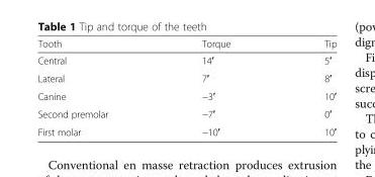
<table><thead><tr><td>Tooth</td><td>Torque</td><td>Tip</td></tr></thead><tbody><tr><td>Central</td><td>14′</td><td>5′</td></tr><tr><td>Lateral</td><td>7′</td><td>8′</td></tr><tr><td>Canine</td><td>−3′</td><td>10′</td></tr><tr><td>Second premolar</td><td>−7′</td><td>0′</td></tr><tr><td>First molar</td><td>−10′</td><td>10′</td></tr></tbody></table>